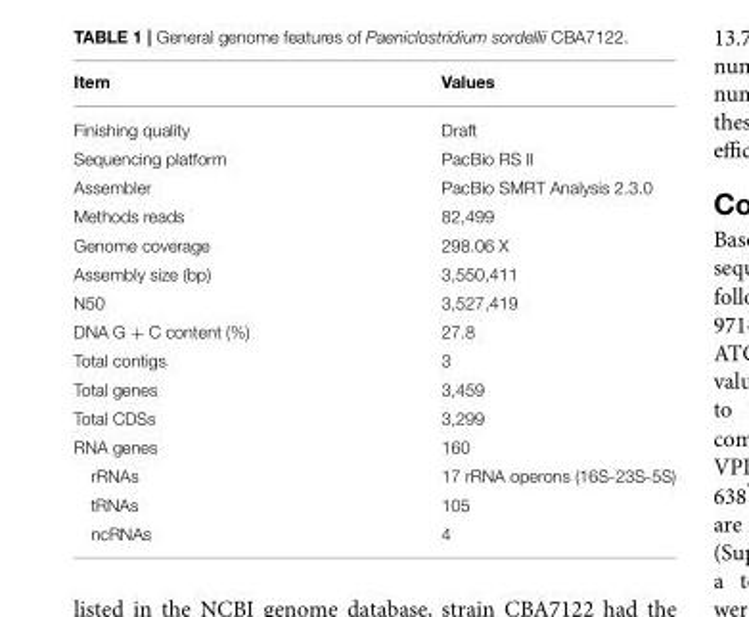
<table><thead><tr><td>Item</td><td>Values</td></tr></thead><tbody><tr><td>Finishing quality</td><td>Draft</td></tr><tr><td>Sequencing platform</td><td>PacBio RS II</td></tr><tr><td>Assembler</td><td>PacBio SMRT Analysis 2.3.0</td></tr><tr><td>Methods reads</td><td>82,499</td></tr><tr><td>Genome coverage</td><td>298.06 X</td></tr><tr><td>Assembly size (bp)</td><td>3,550,411</td></tr><tr><td>N50</td><td>3,527,419</td></tr><tr><td>DNA G + C content (%)</td><td>27.8</td></tr><tr><td>Total contigs</td><td>3</td></tr><tr><td>Total genes</td><td>3,459</td></tr><tr><td>Total CDSs</td><td>3,299</td></tr><tr><td>RNA genes</td><td>160</td></tr><tr><td>rRNAs</td><td>17 rRNA operons (16S-23S-5S)</td></tr><tr><td>tRNAs</td><td>105</td></tr><tr><td>ncRNAs</td><td>4</td></tr></tbody></table>